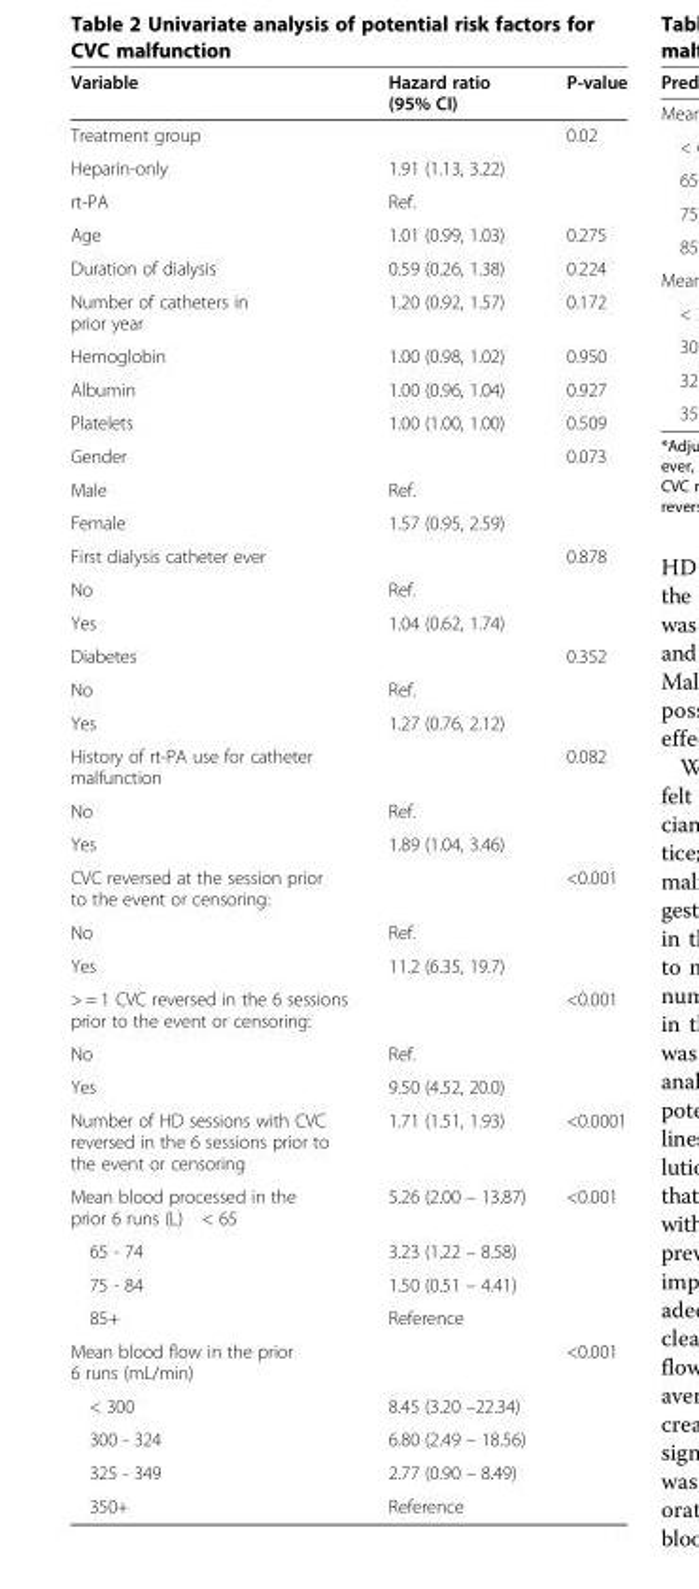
<table><thead><tr><td>Variable</td><td>Hazard ratio (95% CI)</td><td>P-value</td></tr></thead><tbody><tr><td>Treatment group</td><td></td><td>0.02</td></tr><tr><td>Heparin-only</td><td>1.91 (1.13, 3.22)</td><td></td></tr><tr><td>rt-PA</td><td>Ref.</td><td></td></tr><tr><td>Age</td><td>1.01 (0.99, 1.03)</td><td>0.275</td></tr><tr><td>Duration of dialysis</td><td>0.59 (0.26, 1.38)</td><td>0.224</td></tr><tr><td>Number of catheters in prior year</td><td>1.20 (0.92, 1.57)</td><td>0.172</td></tr><tr><td>Hemoglobin</td><td>1.00 (0.98, 1.02)</td><td>0.950</td></tr><tr><td>Albumin</td><td>1.00 (0.96, 1.04)</td><td>0.927</td></tr><tr><td>Platelets</td><td>1.00 (1.00, 1.00)</td><td>0.509</td></tr><tr><td>Gender</td><td></td><td>0.073</td></tr><tr><td>Male</td><td>Ref.</td><td></td></tr><tr><td>Female</td><td>1.57 (0.95, 2.59)</td><td></td></tr><tr><td>First dialysis catheter ever</td><td></td><td>0.878</td></tr><tr><td>No</td><td>Ref.</td><td></td></tr><tr><td>Yes</td><td>1.04 (0.62, 1.74)</td><td></td></tr><tr><td>Diabetes</td><td></td><td>0.352</td></tr><tr><td>No</td><td>Ref.</td><td></td></tr><tr><td>Yes</td><td>1.27 (0.76, 2.12)</td><td></td></tr><tr><td>History of rt-PA use for catheter malfunction</td><td></td><td>0.082</td></tr><tr><td>No</td><td>Ref.</td><td></td></tr><tr><td>Yes</td><td>1.89 (1.04, 3.46)</td><td></td></tr><tr><td>CVC reversed at the session prior to the event or censoring:</td><td></td><td>&lt;0.001</td></tr><tr><td>No</td><td>Ref.</td><td></td></tr><tr><td>Yes</td><td>11.2 (6.35, 19.7)</td><td></td></tr><tr><td>&gt; = 1 CVC reversed in the 6 sessions prior to the event or censoring:</td><td></td><td>&lt;0.001</td></tr><tr><td>No</td><td>Ref.</td><td></td></tr><tr><td>Yes</td><td>9.50 (4.52, 20.0)</td><td></td></tr><tr><td>Number of HD sessions with CVC reversed in the 6 sessions prior to the event or censoring</td><td>1.71 (1.51, 1.93)</td><td>&lt;0.0001</td></tr><tr><td>Mean blood processed in the prior 6 runs (L) &lt; 65</td><td>5.26 (2.00 – 13.87)</td><td rowspan="4">&lt;0.001</td></tr><tr><td>65 - 74</td><td>3.23 (1.22 – 8.58)</td></tr><tr><td>75 - 84</td><td>1.50 (0.51 – 4.41)</td></tr><tr><td>85+</td><td>Reference</td></tr><tr><td>Mean blood flow in the prior 6 runs (mL/min)</td><td></td><td>&lt;0.001</td></tr><tr><td>&lt; 300</td><td>8.45 (3.20 –22.34)</td><td rowspan="4"></td></tr><tr><td>300 - 324</td><td>6.80 (2.49 – 18.56)</td></tr><tr><td>325 - 349</td><td>2.77 (0.90 – 8.49)</td></tr><tr><td>350+</td><td>Reference</td></tr></tbody></table>